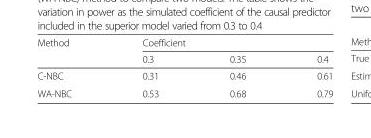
<table><thead><tr><td rowspan="2">Method</td><td colspan="3">Coefficient</td></tr><tr><td>0.3</td><td>0.35</td><td>0.4</td></tr></thead><tbody><tr><td>C-NBC</td><td>0.31</td><td>0.46</td><td>0.61</td></tr><tr><td>WA-NBC</td><td>0.53</td><td>0.68</td><td>0.79</td></tr></tbody></table>